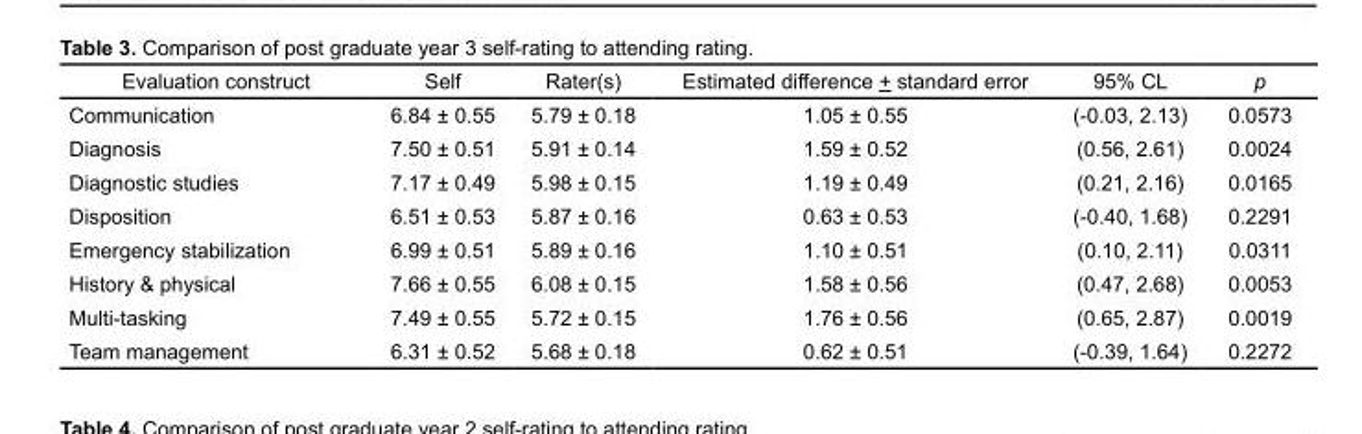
<table><thead><tr><td>Evaluation construct</td><td>Self</td><td>Rater(s)</td><td>Estimated difference + standard error</td><td>95% CL</td><td>p</td></tr></thead><tbody><tr><td>Communication</td><td>6.84 ± 0.55</td><td>5.79 ± 0.18</td><td>1.05 ± 0.55</td><td>(-0.03, 2.13)</td><td>0.0573</td></tr><tr><td>Diagnosis</td><td>7.50 ± 0.51</td><td>5.91 ± 0.14</td><td>1.59 ± 0.52</td><td>(0.56, 2.61)</td><td>0.0024</td></tr><tr><td>Diagnostic studies</td><td>7.17 ± 0.49</td><td>5.98 ± 0.15</td><td>1.19 ± 0.49</td><td>(0.21, 2.16)</td><td>0.0165</td></tr><tr><td>Disposition</td><td>6.51 ± 0.53</td><td>5.87 ± 0.16</td><td>0.63 ± 0.53</td><td>(-0.40, 1.68)</td><td>0.2291</td></tr><tr><td>Emergency stabilization</td><td>6.99 ± 0.51</td><td>5.89 ± 0.16</td><td>1.10 ± 0.51</td><td>(0.10, 2.11)</td><td>0.0311</td></tr><tr><td>History &amp; physical</td><td>7.66 ± 0.55</td><td>6.08 ± 0.15</td><td>1.58 ± 0.56</td><td>(0.47, 2.68)</td><td>0.0053</td></tr><tr><td>Multi-tasking</td><td>7.49 ± 0.55</td><td>5.72 ± 0.15</td><td>1.76 ± 0.56</td><td>(0.65, 2.87)</td><td>0.0019</td></tr><tr><td>Team management</td><td>6.31 ± 0.52</td><td>5.68 ± 0.18</td><td>0.62 ± 0.51</td><td>(-0.39, 1.64)</td><td>0.2272</td></tr></tbody></table>